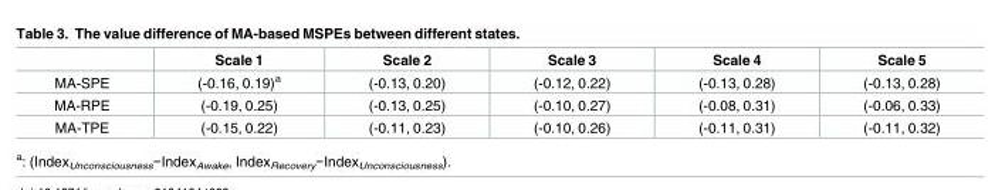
<table><thead><tr><td></td><td>Scale 1</td><td>Scale 2</td><td>Scale 3</td><td>Scale 4</td><td>Scale 5</td></tr></thead><tbody><tr><td>MA-SPE</td><td>(-0.16, 0.19)<sup>a</sup></td><td>(-0.13, 0.20)</td><td>(-0.12, 0.22)</td><td>(-0.13, 0.28)</td><td>(-0.13, 0.28)</td></tr><tr><td>MA-RPE</td><td>(-0.19, 0.25)</td><td>(-0.13, 0.25)</td><td>(-0.10, 0.27)</td><td>(-0.08, 0.31)</td><td>(-0.06, 0.33)</td></tr><tr><td>MA-TPE</td><td>(-0.15, 0.22)</td><td>(-0.11, 0.23)</td><td>(-0.10, 0.26)</td><td>(-0.11, 0.31)</td><td>(-0.11, 0.32)</td></tr></tbody></table>